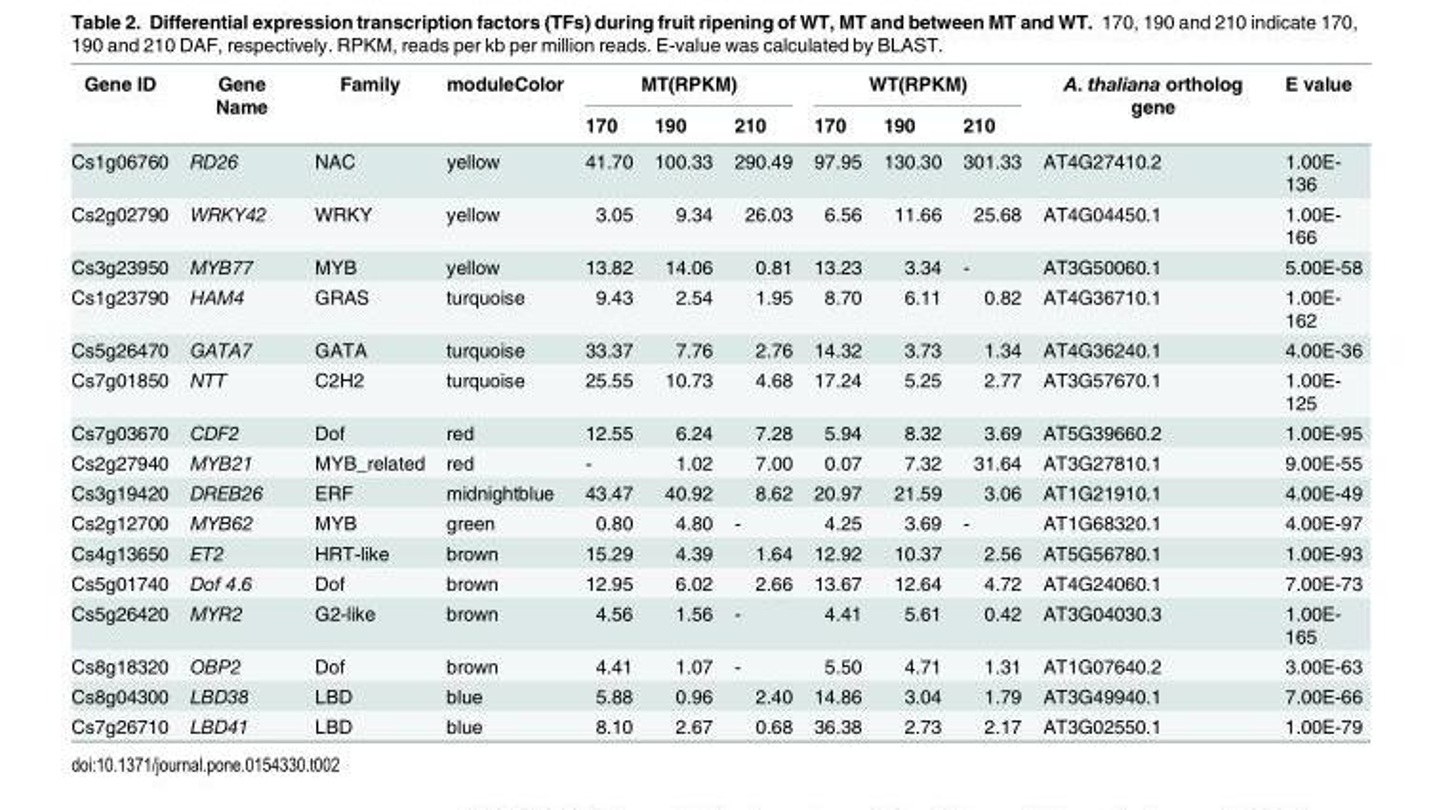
<table><thead><tr><td rowspan="2">Gene ID</td><td rowspan="2">Gene Name</td><td rowspan="2">Family</td><td rowspan="2">moduleColor</td><td colspan="3">MT(RPKM)</td><td colspan="3">WT(RPKM)</td><td rowspan="2">A. thaliana ortholog gene</td><td rowspan="2">E value</td></tr><tr><td>170</td><td>190</td><td>210</td><td>170</td><td>190</td><td>210</td></tr></thead><tbody><tr><td>Cs1g06760</td><td>RD26</td><td>NAC</td><td>yellow</td><td>41.70</td><td>100.33</td><td>290.49</td><td>97.95</td><td>130.30</td><td>301.33</td><td>AT4G27410.2</td><td>1.00E- 136</td></tr><tr><td>Cs2g02790</td><td>WRKY42</td><td>WRKY</td><td>yellow</td><td>3.05</td><td>9.34</td><td>26.03</td><td>6.56</td><td>11.66</td><td>25.68</td><td>AT4G04450.1</td><td>1.00E- 166</td></tr><tr><td>Cs3g23950</td><td>MYB77</td><td>MYB</td><td>yellow</td><td>13.82</td><td>14.06</td><td>0.81</td><td>13.23</td><td>3.34</td><td>-</td><td>AT3G50060.1</td><td>5.00E-58</td></tr><tr><td>Cs1g23790</td><td>HAM4</td><td>GRAS</td><td>turquoise</td><td>9.43</td><td>2.54</td><td>1.95</td><td>8.70</td><td>6.11</td><td>0.82</td><td>AT4G36710.1</td><td>1.00E- 162</td></tr><tr><td>Cs5g26470</td><td>GATA7</td><td>GATA</td><td>turquoise</td><td>33.37</td><td>7.76</td><td>2.76</td><td>14.32</td><td>3.73</td><td>1.34</td><td>AT4G36240.1</td><td>4.00E-36</td></tr><tr><td>Cs7g01850</td><td>NTT</td><td>C2H2</td><td>turquoise</td><td>25.55</td><td>10.73</td><td>4.68</td><td>17.24</td><td>5.25</td><td>2.77</td><td>AT3G57670.1</td><td>1.00E- 125</td></tr><tr><td>Cs7g03670</td><td>CDF2</td><td>Dof</td><td>red</td><td>12.55</td><td>6.24</td><td>7.28</td><td>5.94</td><td>8.32</td><td>3.69</td><td>AT5G39660.2</td><td>1.00E-95</td></tr><tr><td>Cs2g27940</td><td>MYB21</td><td>MYB_related</td><td>red</td><td>-</td><td>1.02</td><td>7.00</td><td>0.07</td><td>7.32</td><td>31.64</td><td>AT3G27810.1</td><td>9.00E-55</td></tr><tr><td>Cs3g19420</td><td>DREB26</td><td>ERF</td><td>midnightblue</td><td>43.47</td><td>40.92</td><td>8.62</td><td>20.97</td><td>21.59</td><td>3.06</td><td>AT1G21910.1</td><td>4.00E-49</td></tr><tr><td>Cs2g12700</td><td>MYB62</td><td>MYB</td><td>green</td><td>0.80</td><td>4.80</td><td>-</td><td>4.25</td><td>3.69</td><td>-</td><td>AT1G68320.1</td><td>4.00E-97</td></tr><tr><td>Cs4g13650</td><td>ET2</td><td>HRT-like</td><td>brown</td><td>15.29</td><td>4.39</td><td>1.64</td><td>12.92</td><td>10.37</td><td>2.56</td><td>AT5G56780.1</td><td>1.00E-93</td></tr><tr><td>Cs5g01740</td><td>Dof 4.6</td><td>Dof</td><td>brown</td><td>12.95</td><td>6.02</td><td>2.66</td><td>13.67</td><td>12.64</td><td>4.72</td><td>AT4G24060.1</td><td>7.00E-73</td></tr><tr><td>Cs5g26420</td><td>MYR2</td><td>G2-like</td><td>brown</td><td>4.56</td><td>1.56</td><td>-</td><td>4.41</td><td>5.61</td><td>0.42</td><td>AT3G04030.3</td><td>1.00E- 165</td></tr><tr><td>Cs8g18320</td><td>OBP2</td><td>Dof</td><td>brown</td><td>4.41</td><td>1.07</td><td>-</td><td>5.50</td><td>4.71</td><td>1.31</td><td>AT1G07640.2</td><td>3.00E-63</td></tr><tr><td>Cs8g04300</td><td>LBD38</td><td>LBD</td><td>blue</td><td>5.88</td><td>0.96</td><td>2.40</td><td>14.86</td><td>3.04</td><td>1.79</td><td>AT3G49940.1</td><td>7.00E-66</td></tr><tr><td>Cs7g26710</td><td>LBD41</td><td>LBD</td><td>blue</td><td>8.10</td><td>2.67</td><td>0.68</td><td>36.38</td><td>2.73</td><td>2.17</td><td>AT3G02550.1</td><td>1.00E-79</td></tr></tbody></table>